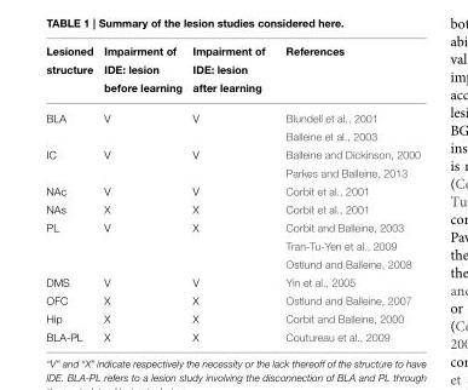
<table><thead><tr><td rowspan="3">Lesioned structure</td><td rowspan="3">Impairment of IDE: lesion before learning</td><td rowspan="3">Impairment of IDE: lesion after learning</td><td rowspan="3">References</td></tr><tr></tr><tr></tr></thead><tbody><tr><td rowspan="2">BLA</td><td>V</td><td>V</td><td>Blundell et al., 2001</td></tr><tr><td></td><td></td><td>Balleine et al., 2003</td></tr><tr><td rowspan="2">IC</td><td>V</td><td>V</td><td>Balleine and Dickinson, 2000</td></tr><tr><td></td><td></td><td>Parkes and Balleine, 2013</td></tr><tr><td>NAc</td><td>V</td><td>V</td><td>Corbit et al., 2001</td></tr><tr><td>NAs</td><td>X</td><td>X</td><td>Corbit et al., 2001</td></tr><tr><td rowspan="3">PL</td><td>V</td><td>X</td><td>Corbit and Balleine, 2003</td></tr><tr><td></td><td></td><td>Tran-Tu-Yen et al., 2009</td></tr><tr><td></td><td></td><td>Ostlund and Balleine, 2008</td></tr><tr><td>DMS</td><td>V</td><td>V</td><td>Yin et al., 2005</td></tr><tr><td>OFC</td><td>X</td><td>X</td><td>Ostlund and Balleine, 2007</td></tr><tr><td>Hip</td><td>X</td><td>X</td><td>Corbit and Balleine, 2000</td></tr><tr><td>BLA-PL</td><td>X</td><td>X</td><td>Coutureau et al., 2009</td></tr></tbody></table>